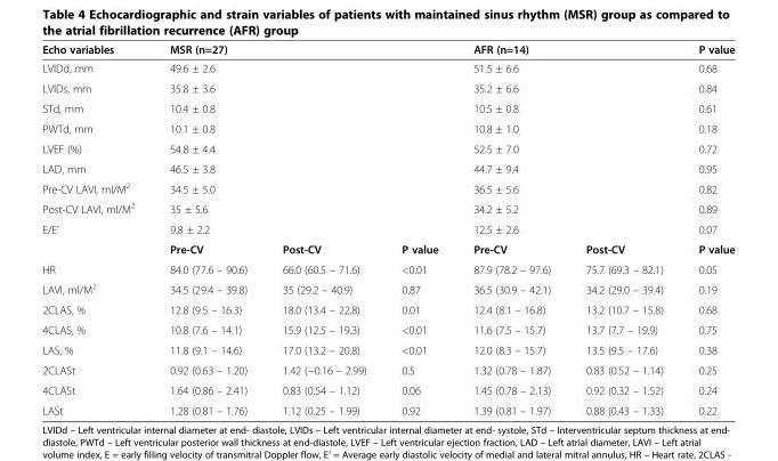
<table><thead><tr><td>Echo variables</td><td colspan="3">MSR (n=27)</td><td colspan="2">AFR (n=14)</td><td>P value</td></tr></thead><tbody><tr><td>LVIDd, mm</td><td colspan="3">49.6 ± 2.6</td><td colspan="2">51.5 ± 6.6</td><td>0.68</td></tr><tr><td>LVIDs, mm</td><td colspan="3">35.8 ± 3.6</td><td colspan="2">35.2 ± 6.6</td><td>0.84</td></tr><tr><td>STd, mm</td><td colspan="3">10.4 ± 0.8</td><td colspan="2">10.5 ± 0.8</td><td>0.61</td></tr><tr><td>PWTd, mm</td><td colspan="3">10.1 ± 0.8</td><td colspan="2">10.8 ± 1.0</td><td>0.18</td></tr><tr><td>LVEF (%)</td><td colspan="3">54.8 ± 4.4</td><td colspan="2">52.5 ± 7.0</td><td>0.72</td></tr><tr><td>LAD, mm</td><td colspan="3">46.5 ± 3.8</td><td colspan="2">44.7 ± 9.4</td><td>0.95</td></tr><tr><td>Pre-CV LAVI, ml/M<sup>2</sup></td><td colspan="3">34.5 ± 5.0</td><td colspan="2">36.5 ± 5.6</td><td>0.82</td></tr><tr><td>Post-CV LAVI, ml/M<sup>2</sup></td><td colspan="3">35 ± 5.6</td><td colspan="2">34.2 ± 5.2</td><td>0.89</td></tr><tr><td rowspan="2">E/E’</td><td colspan="3">9.8 ± 2.2</td><td colspan="2">12.5 ± 2.6</td><td>0.07</td></tr><tr><td>Pre-CV</td><td>Post-CV</td><td>P value</td><td>Pre-CV</td><td>Post-CV</td><td>P value</td></tr><tr><td>HR</td><td>84.0 (77.6 – 90.6)</td><td>66.0 (60.5 – 71.6)</td><td>&lt;0.01</td><td>87.9 (78.2 – 97.6)</td><td>75.7 (69.3 – 82.1)</td><td>0.05</td></tr><tr><td>LAVI, ml/M<sup>2</sup></td><td>34.5 (29.4 – 39.8)</td><td>35 (29.2 – 40.9)</td><td>0.87</td><td>36.5 (30.9 – 42.1)</td><td>34.2 (29.0 – 39.4)</td><td>0.19</td></tr><tr><td>2CLAS, %</td><td>12.8 (9.5 – 16.3)</td><td>18.0 (13.4 – 22.8)</td><td>0.01</td><td>12.4 (8.1 – 16.8)</td><td>13.2 (10.7 – 15.8)</td><td>0.68</td></tr><tr><td>4CLAS, %</td><td>10.8 (7.6 – 14.1)</td><td>15.9 (12.5 – 19.3)</td><td>&lt;0.01</td><td>11.6 (7.5 – 15.7)</td><td>13.7 (7.7 – 19.9)</td><td>0.75</td></tr><tr><td>LAS, %</td><td>11.8 (9.1 – 14.6)</td><td>17.0 (13.2 – 20.8)</td><td>&lt;0.01</td><td>12.0 (8.3 – 15.7)</td><td>13.5 (9.5 – 17.6)</td><td>0.38</td></tr><tr><td>2CLASt</td><td>0.92 (0.63 – 1.20)</td><td>1.42 (−0.16 – 2.99)</td><td>0.5</td><td>1.32 (0.78 – 1.87)</td><td>0.83 (0.52 – 1.14)</td><td>0.25</td></tr><tr><td>4CLASt</td><td>1.64 (0.86 – 2.41)</td><td>0.83 (0.54 – 1.12)</td><td>0.06</td><td>1.45 (0.78 – 2.13)</td><td>0.92 (0.32 – 1.52)</td><td>0.24</td></tr><tr><td>LASt</td><td>1.28 (0.81 – 1.76)</td><td>1.12 (0.25 – 1.99)</td><td>0.92</td><td>1.39 (0.81 – 1.97)</td><td>0.88 (0.43 – 1.33)</td><td>0.22</td></tr></tbody></table>